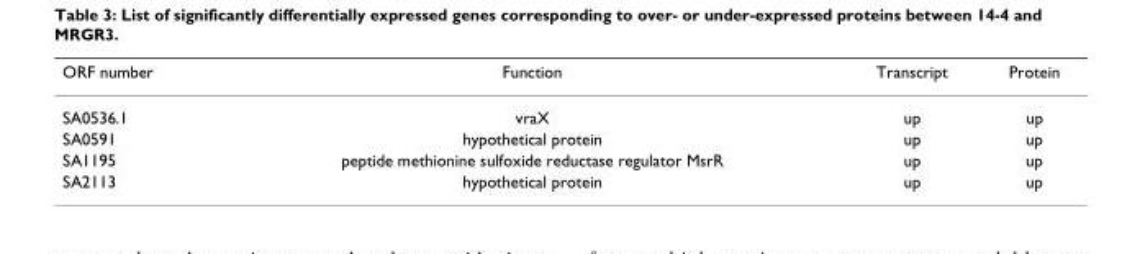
<table><thead><tr><td>ORF number</td><td>Function</td><td>Transcript</td><td>Protein</td></tr></thead><tbody><tr><td>SA0536.1</td><td>vraX</td><td>up</td><td>up</td></tr><tr><td>SA0591</td><td>hypothetical protein</td><td>up</td><td>up</td></tr><tr><td>SA1195</td><td>peptide methionine sulfoxide reductase regulator MsrR</td><td>up</td><td>up</td></tr><tr><td>SA2113</td><td>hypothetical protein</td><td>up</td><td>up</td></tr></tbody></table>